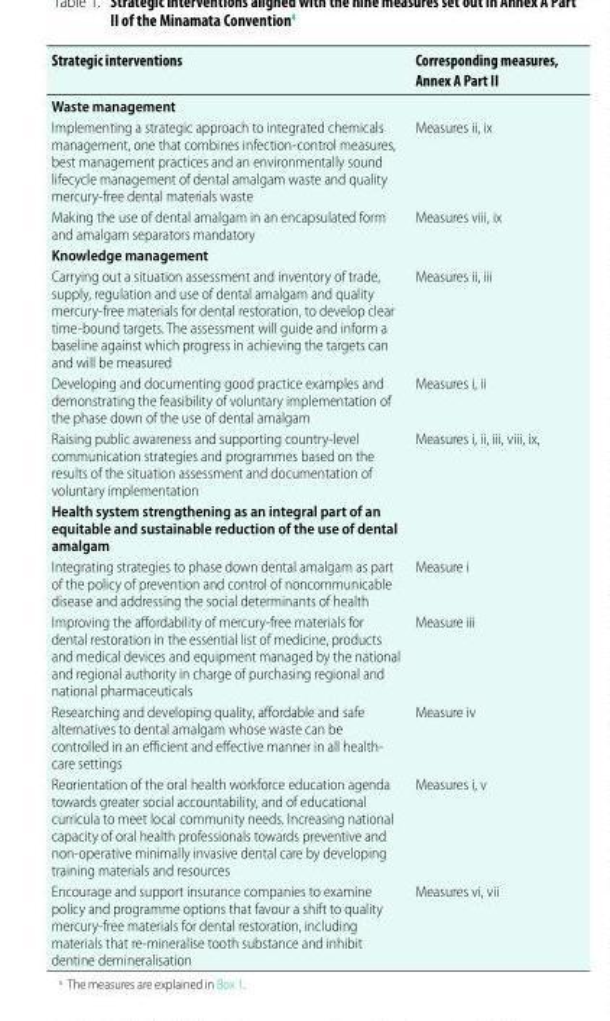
<table><thead><tr><td>Strategic interventions</td><td>Corresponding measures, Annex A Part II</td></tr></thead><tbody><tr><td colspan="2">Waste management</td></tr><tr><td>Implementing a strategic approach to integrated chemicals management, one that combines infection-control measures, best management practices and an environmentally sound lifecycle management of dental amalgam waste and quality mercury-free dental materials waste</td><td>Measures ii, ix</td></tr><tr><td>Making the use of dental amalgam in an encapsulated form and amalgam separators mandatory</td><td>Measures viii, ix</td></tr><tr><td colspan="2">Knowledge management</td></tr><tr><td>Carrying out a situation assessment and inventory of trade, supply, regulation and use of dental amalgam and quality mercury-free materials for dental restoration, to develop clear time-bound targets. The assessment will guide and inform a baseline against which progress in achieving the targets can and will be measured</td><td>Measures ii, iii</td></tr><tr><td>Developing and documenting good practice examples and demonstrating the feasibility of voluntary implementation of the phase down of the use of dental amalgam</td><td>Measures i, ii</td></tr><tr><td>Raising public awareness and supporting country-level communication strategies and programmes based on the results of the situation assessment and documentation of voluntary implementation</td><td>Measures i, ii, iii, viii, ix,</td></tr><tr><td colspan="2">Health system strengthening as an integral part of an equitable and sustainable reduction of the use of dental amalgam</td></tr><tr><td>Integrating strategies to phase down dental amalgam as part of the policy of prevention and control of noncommunicable disease and addressing the social determinants of health</td><td>Measure i</td></tr><tr><td>Improving the affordability of mercury-free materials for dental restoration in the essential list of medicine, products and medical devices and equipment managed by the national and regional authority in charge of purchasing regional and national pharmaceuticals</td><td>Measure iii</td></tr><tr><td>Researching and developing quality, affordable and safe alternatives to dental amalgam whose waste can be controlled in an efficient and effective manner in all health- care settings</td><td>Measure iv</td></tr><tr><td>Reorientation of the oral health workforce education agenda towards greater social accountability, and of educational curricula to meet local community needs. Increasing national capacity of oral health professionals towards preventive and non-operative minimally invasive dental care by developing training materials and resources</td><td>Measures i, v</td></tr><tr><td>Encourage and support insurance companies to examine policy and programme options that favour a shift to quality mercury-free materials for dental restoration, including materials that re-mineralise tooth substance and inhibit dentine demineralisation</td><td>Measures vi, vii</td></tr></tbody></table>